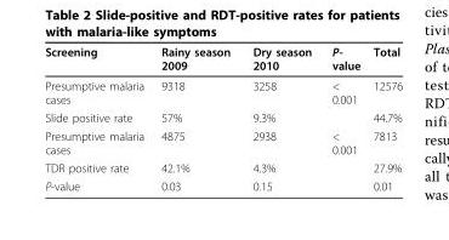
<table><thead><tr><td>Screening</td><td>Rainy season 2009</td><td>Dry season 2010</td><td>P- value</td><td>Total</td></tr></thead><tbody><tr><td>Presumptive malaria cases</td><td>9318</td><td>3258</td><td>&lt; 0.001</td><td>12576</td></tr><tr><td>Slide positive rate</td><td>57%</td><td>9.3%</td><td></td><td>44.7%</td></tr><tr><td>Presumptive malaria cases</td><td>4875</td><td>2938</td><td>&lt; 0.001</td><td>7813</td></tr><tr><td>TDR positive rate</td><td>42.1%</td><td>4.3%</td><td></td><td>27.9%</td></tr><tr><td>P-value</td><td>0.03</td><td>0.15</td><td></td><td>0.01</td></tr></tbody></table>